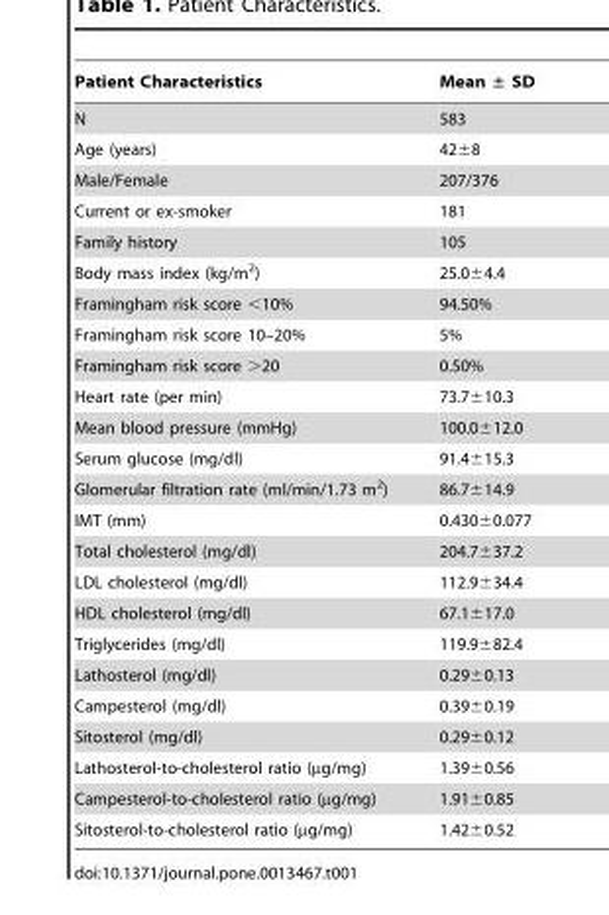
<table><thead><tr><td>Patient Characteristics</td><td>Mean ± SD</td></tr></thead><tbody><tr><td>N</td><td>583</td></tr><tr><td>Age (years)</td><td>42±8</td></tr><tr><td>Male/Female</td><td>207/376</td></tr><tr><td>Current or ex-smoker</td><td>181</td></tr><tr><td>Family history</td><td>105</td></tr><tr><td>Body mass index (kg/m<sup>2</sup>)</td><td>25.0±4.4</td></tr><tr><td>Framingham risk score &lt;10%</td><td>94.50%</td></tr><tr><td>Framingham risk score 10–20%</td><td>5%</td></tr><tr><td>Framingham risk score &gt;20</td><td>0.50%</td></tr><tr><td>Heart rate (per min)</td><td>73.7±10.3</td></tr><tr><td>Mean blood pressure (mmHg)</td><td>100.0±12.0</td></tr><tr><td>Serum glucose (mg/dl)</td><td>91.4±15.3</td></tr><tr><td>Glomerular filtration rate (ml/min/1.73 m<sup>2</sup>)</td><td>86.7±14.9</td></tr><tr><td>IMT (mm)</td><td>0.430±0.077</td></tr><tr><td>Total cholesterol (mg/dl)</td><td>204.7±37.2</td></tr><tr><td>LDL cholesterol (mg/dl)</td><td>112.9±34.4</td></tr><tr><td>HDL cholesterol (mg/dl)</td><td>67.1±17.0</td></tr><tr><td>Triglycerides (mg/dl)</td><td>119.9±82.4</td></tr><tr><td>Lathosterol (mg/dl)</td><td>0.29±0.13</td></tr><tr><td>Campesterol (mg/dl)</td><td>0.39±0.19</td></tr><tr><td>Sitosterol (mg/dl)</td><td>0.29±0.12</td></tr><tr><td>Lathosterol-to-cholesterol ratio (µg/mg)</td><td>1.39±0.56</td></tr><tr><td>Campesterol-to-cholesterol ratio (µg/mg)</td><td>1.91±0.85</td></tr><tr><td>Sitosterol-to-cholesterol ratio (µg/mg)</td><td>1.42±0.52</td></tr></tbody></table>